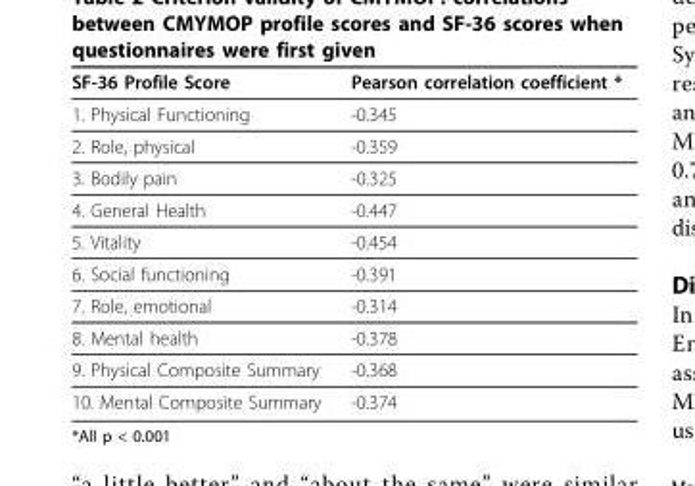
<table><thead><tr><td>SF-36 Profile Score</td><td>Pearson correlation coefficient *</td></tr></thead><tbody><tr><td>1. Physical Functioning</td><td>-0.345</td></tr><tr><td>2. Role, physical</td><td>-0.359</td></tr><tr><td>3. Bodily pain</td><td>-0.325</td></tr><tr><td>4. General Health</td><td>-0.447</td></tr><tr><td>5. Vitality</td><td>-0.454</td></tr><tr><td>6. Social functioning</td><td>-0.391</td></tr><tr><td>7. Role, emotional</td><td>-0.314</td></tr><tr><td>8. Mental health</td><td>-0.378</td></tr><tr><td>9. Physical Composite Summary</td><td>-0.368</td></tr><tr><td>10. Mental Composite Summary</td><td>-0.374</td></tr></tbody></table>